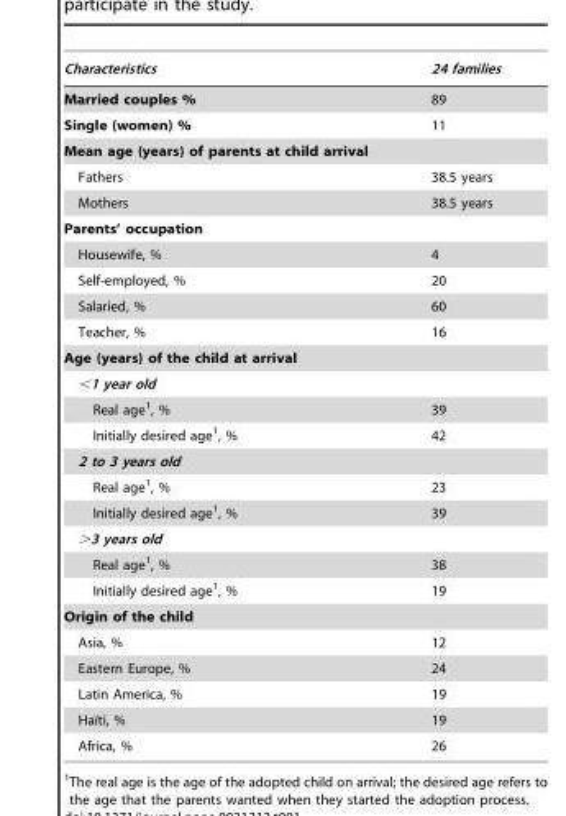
<table><thead><tr><td>Characteristics</td><td>24 families</td></tr></thead><tbody><tr><td>Married couples %</td><td>89</td></tr><tr><td>Single (women) %</td><td>11</td></tr><tr><td colspan="2">Mean age (years) of parents at child arrival</td></tr><tr><td>Fathers</td><td>38.5 years</td></tr><tr><td>Mothers</td><td>38.5 years</td></tr><tr><td colspan="2">Parents’ occupation</td></tr><tr><td>Housewife, %</td><td>4</td></tr><tr><td>Self-employed, %</td><td>20</td></tr><tr><td>Salaried, %</td><td>60</td></tr><tr><td>Teacher, %</td><td>16</td></tr><tr><td colspan="2">Age (years) of the child at arrival</td></tr><tr><td colspan="2">&lt;1 year old</td></tr><tr><td>Real age<sup>1</sup>, %</td><td>39</td></tr><tr><td>Initially desired age<sup>1</sup>, %</td><td>42</td></tr><tr><td colspan="2">2 to 3 years old</td></tr><tr><td>Real age<sup>1</sup>, %</td><td>23</td></tr><tr><td>Initially desired age<sup>1</sup>, %</td><td>39</td></tr><tr><td colspan="2">&gt;3 years old</td></tr><tr><td>Real age<sup>1</sup>, %</td><td>38</td></tr><tr><td>Initially desired age<sup>1</sup>, %</td><td>19</td></tr><tr><td colspan="2">Origin of the child</td></tr><tr><td>Asia, %</td><td>12</td></tr><tr><td>Eastern Europe, %</td><td>24</td></tr><tr><td>Latin America, %</td><td>19</td></tr><tr><td>Haı¨ti, %</td><td>19</td></tr><tr><td>Africa, %</td><td>26</td></tr></tbody></table>